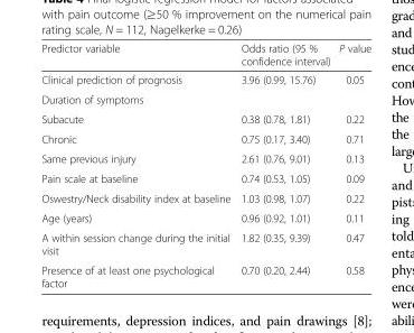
<table><thead><tr><td>Predictor variable</td><td>Odds ratio (95 % confidence interval)</td><td>P value</td></tr></thead><tbody><tr><td>Clinical prediction of prognosis</td><td>3.96 (0.99, 15.76)</td><td>0.05</td></tr><tr><td colspan="3">Duration of symptoms</td></tr><tr><td>Subacute</td><td>0.38 (0.78, 1.81)</td><td>0.22</td></tr><tr><td>Chronic</td><td>0.75 (0.17, 3.40)</td><td>0.71</td></tr><tr><td>Same previous injury</td><td>2.61 (0.76, 9.01)</td><td>0.13</td></tr><tr><td>Pain scale at baseline</td><td>0.74 (0.53, 1.05)</td><td>0.09</td></tr><tr><td>Oswestry/Neck disability index at baseline</td><td>1.03 (0.98, 1.07)</td><td>0.22</td></tr><tr><td>Age (years)</td><td>0.96 (0.92, 1.01)</td><td>0.11</td></tr><tr><td>A within session change during the initial visit</td><td>1.82 (0.35, 9.39)</td><td>0.47</td></tr><tr><td>Presence of at least one psychological factor</td><td>0.70 (0.20, 2.44)</td><td>0.58</td></tr></tbody></table>